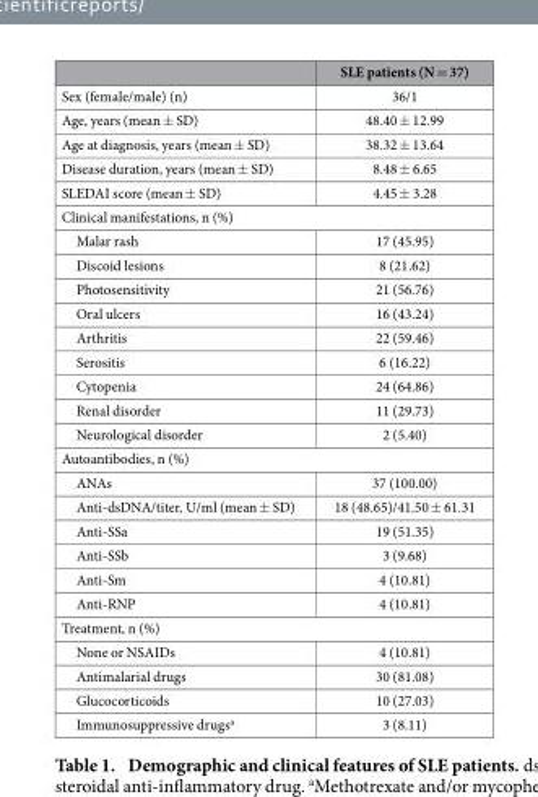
<table><thead><tr><td></td><td>SLE patients (N = 37)</td></tr></thead><tbody><tr><td>Sex (female/male) (n)</td><td>36/1</td></tr><tr><td>Age, years (mean ± SD)</td><td>48.40 ± 12.99</td></tr><tr><td>Age at diagnosis, years (mean ± SD)</td><td>38.32 ± 13.64</td></tr><tr><td>Disease duration, years (mean ± SD)</td><td>8.48 ± 6.65</td></tr><tr><td>SLEDAI score (mean ± SD)</td><td>4.45 ± 3.28</td></tr><tr><td colspan="2">Clinical manifestations, n (%)</td></tr><tr><td>Malar rash</td><td>17 (45.95)</td></tr><tr><td>Discoid lesions</td><td>8 (21.62)</td></tr><tr><td>Photosensitivity</td><td>21 (56.76)</td></tr><tr><td>Oral ulcers</td><td>16 (43.24)</td></tr><tr><td>Arthritis</td><td>22 (59.46)</td></tr><tr><td>Serositis</td><td>6 (16.22)</td></tr><tr><td>Cytopenia</td><td>24 (64.86)</td></tr><tr><td>Renal disorder</td><td>11 (29.73)</td></tr><tr><td>Neurological disorder</td><td>2 (5.40)</td></tr><tr><td colspan="2">Autoantibodies, n (%)</td></tr><tr><td>ANAs</td><td>37 (100.00)</td></tr><tr><td>Anti-dsDNA/titer, U/ml (mean ± SD)</td><td>18 (48.65)/41.50 ± 61.31</td></tr><tr><td>Anti-SSa</td><td>19 (51.35)</td></tr><tr><td>Anti-SSb</td><td>3 (9.68)</td></tr><tr><td>Anti-Sm</td><td>4 (10.81)</td></tr><tr><td>Anti-RNP</td><td>4 (10.81)</td></tr><tr><td colspan="2">Treatment, n (%)</td></tr><tr><td>None or NSAIDs</td><td>4 (10.81)</td></tr><tr><td>Antimalarial drugs</td><td>30 (81.08)</td></tr><tr><td>Glucocorticoids</td><td>10 (27.03)</td></tr><tr><td>Immunosuppressive drugs<sup>a</sup></td><td>3 (8.11)</td></tr></tbody></table>